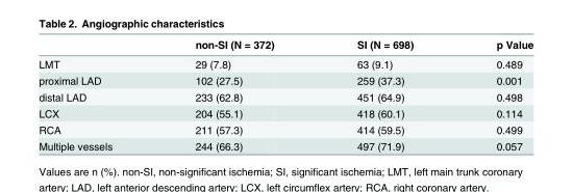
<table><thead><tr><td></td><td>non-SI (N = 372)</td><td>SI (N = 698)</td><td>p Value</td></tr></thead><tbody><tr><td>LMT</td><td>29 (7.8)</td><td>63 (9.1)</td><td>0.489</td></tr><tr><td>proximal LAD</td><td>102 (27.5)</td><td>259 (37.3)</td><td>0.001</td></tr><tr><td>distal LAD</td><td>233 (62.8)</td><td>451 (64.9)</td><td>0.498</td></tr><tr><td>LCX</td><td>204 (55.1)</td><td>418 (60.1)</td><td>0.114</td></tr><tr><td>RCA</td><td>211 (57.3)</td><td>414 (59.5)</td><td>0.499</td></tr><tr><td>Multiple vessels</td><td>244 (66.3)</td><td>497 (71.9)</td><td>0.057</td></tr></tbody></table>